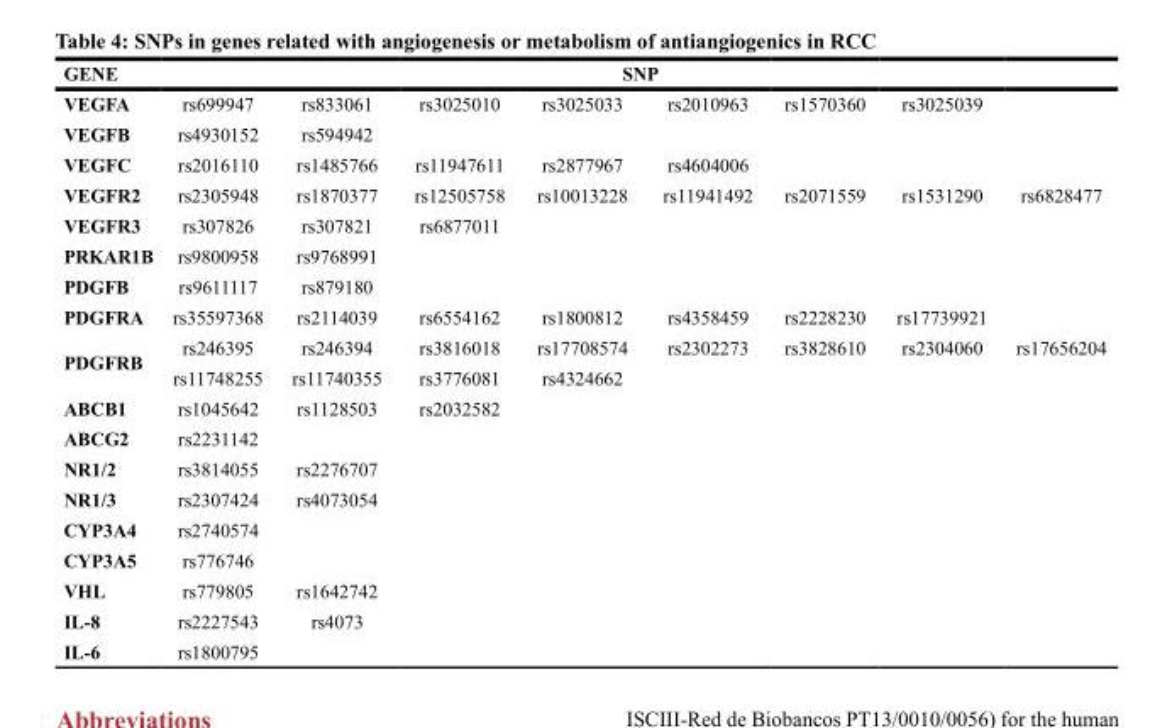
<table><thead><tr><td rowspan="2">GENE VEGFA</td><td colspan="8">SNP</td></tr><tr><td>rs699947</td><td>rs833061</td><td>rs3025010</td><td>rs3025033</td><td>rs2010963</td><td>rs1570360</td><td>rs3025039</td><td></td></tr></thead><tbody><tr><td>VEGFB</td><td>rs4930152</td><td>rs594942</td><td></td><td></td><td></td><td></td><td></td><td></td></tr><tr><td>VEGFC</td><td>rs2016110</td><td>rs1485766</td><td>rs11947611</td><td>rs2877967</td><td>rs4604006</td><td></td><td></td><td></td></tr><tr><td>VEGFR2</td><td>rs2305948</td><td>rs1870377</td><td>rs12505758</td><td>rs10013228</td><td>rs11941492</td><td>rs2071559</td><td>rs1531290</td><td>rs6828477</td></tr><tr><td>VEGFR3</td><td>rs307826</td><td>rs307821</td><td>rs6877011</td><td></td><td></td><td></td><td></td><td></td></tr><tr><td>PRKAR1B</td><td>rs9800958</td><td>rs9768991</td><td></td><td></td><td></td><td></td><td></td><td></td></tr><tr><td>PDGFB</td><td>rs9611117</td><td>rs879180</td><td></td><td></td><td></td><td></td><td></td><td></td></tr><tr><td>PDGFRA</td><td>rs35597368</td><td>rs2114039</td><td>rs6554162</td><td>rs1800812</td><td>rs4358459</td><td>rs2228230</td><td>rs17739921</td><td></td></tr><tr><td rowspan="2">PDGFRB</td><td>rs246395</td><td>rs246394</td><td>rs3816018</td><td>rs17708574</td><td>rs2302273</td><td>rs3828610</td><td>rs2304060</td><td>rs17656204</td></tr><tr><td>rs11748255</td><td>rs11740355</td><td>rs3776081</td><td>rs4324662</td><td></td><td></td><td></td><td></td></tr><tr><td>ABCB1</td><td>rs1045642</td><td>rs1128503</td><td>rs2032582</td><td></td><td></td><td></td><td></td><td></td></tr><tr><td>ABCG2</td><td>rs2231142</td><td></td><td></td><td></td><td></td><td></td><td></td><td></td></tr><tr><td>NR1/2</td><td>rs3814055</td><td>rs2276707</td><td></td><td></td><td></td><td></td><td></td><td></td></tr><tr><td>NR1/3</td><td>rs2307424</td><td>rs4073054</td><td></td><td></td><td></td><td></td><td></td><td></td></tr><tr><td>CYP3A4</td><td>rs2740574</td><td></td><td></td><td></td><td></td><td></td><td></td><td></td></tr><tr><td>CYP3A5</td><td>rs776746</td><td></td><td></td><td></td><td></td><td></td><td></td><td></td></tr><tr><td>VHL</td><td>rs779805</td><td>rs1642742</td><td></td><td></td><td></td><td></td><td></td><td></td></tr><tr><td>IL-8</td><td>rs2227543</td><td>rs4073</td><td></td><td></td><td></td><td></td><td></td><td></td></tr><tr><td>IL-6</td><td>rs1800795</td><td></td><td></td><td></td><td></td><td></td><td></td><td></td></tr></tbody></table>